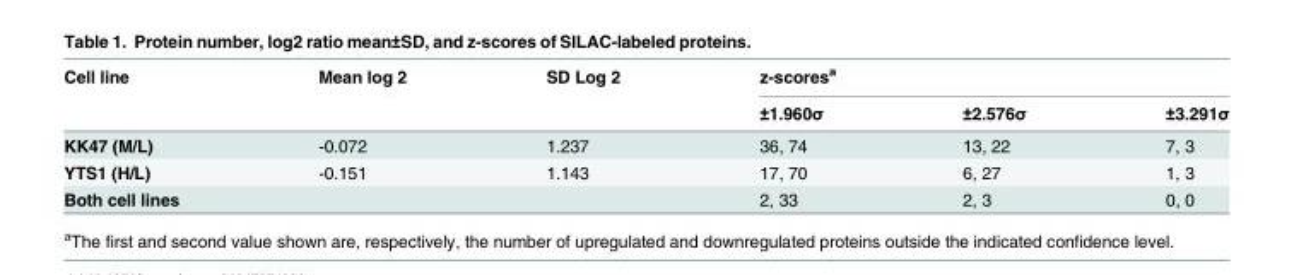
<table><thead><tr><td rowspan="2">Cell line</td><td rowspan="2">Mean log 2</td><td rowspan="2">SD Log 2</td><td colspan="3">z-scores<sup>a</sup></td></tr><tr><td>±1.960σ</td><td>±2.576σ</td><td>±3.291σ</td></tr></thead><tbody><tr><td>KK47 (M/L)</td><td>-0.072</td><td>1.237</td><td>36, 74</td><td>13, 22</td><td>7, 3</td></tr><tr><td>YTS1 (H/L)</td><td>-0.151</td><td>1.143</td><td>17, 70</td><td>6, 27</td><td>1, 3</td></tr><tr><td>Both cell lines</td><td></td><td></td><td>2, 33</td><td>2, 3</td><td>0, 0</td></tr></tbody></table>